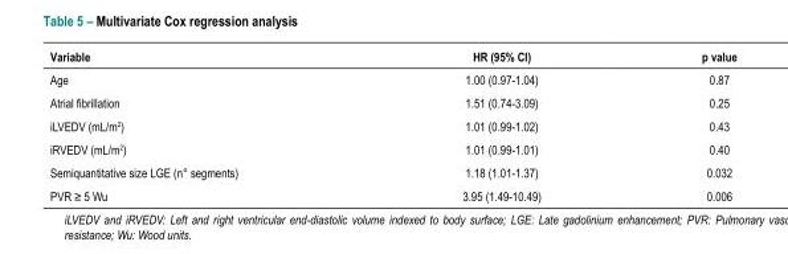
<table><thead><tr><td>Variable</td><td>HR (95% CI)</td><td>p value</td></tr></thead><tbody><tr><td>Age</td><td>1.00 (0.97-1.04)</td><td>0.87</td></tr><tr><td>Atrial fibrillation</td><td>1.51 (0.74-3.09)</td><td>0.25</td></tr><tr><td>iLVEDV (mL/m<sup>2</sup>)</td><td>1.01 (0.99-1.02)</td><td>0.43</td></tr><tr><td>iRVEDV (mL/m<sup>2</sup>)</td><td>1.01 (0.99-1.01)</td><td>0.40</td></tr><tr><td>Semiquantitative size LGE (n° segments)</td><td>1.18 (1.01-1.37)</td><td>0.032</td></tr><tr><td>PVR ≥ 5 Wu</td><td>3.95 (1.49-10.49)</td><td>0.006</td></tr></tbody></table>